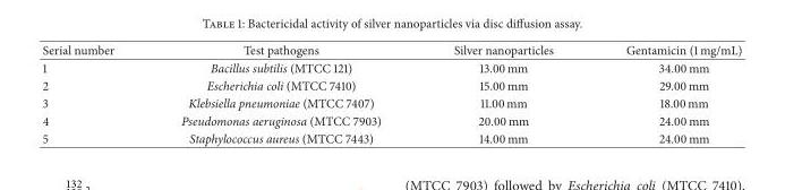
<table><thead><tr><td>Serial number</td><td>Test pathogens</td><td>Silver nanoparticles</td><td>Gentamicin (1 mg/mL)</td></tr></thead><tbody><tr><td>1</td><td>Bacillus subtilis (MTCC 121)</td><td>13.00 mm</td><td>34.00 mm</td></tr><tr><td>2</td><td>Escherichia coli (MTCC 7410)</td><td>15.00 mm</td><td>29.00 mm</td></tr><tr><td>3</td><td>Klebsiella pneumoniae (MTCC 7407)</td><td>11.00 mm</td><td>18.00 mm</td></tr><tr><td>4</td><td>Pseudomonas aeruginosa (MTCC 7903)</td><td>20.00 mm</td><td>24.00 mm</td></tr><tr><td>5</td><td>Staphylococcus aureus (MTCC 7443)</td><td>14.00 mm</td><td>24.00 mm</td></tr></tbody></table>